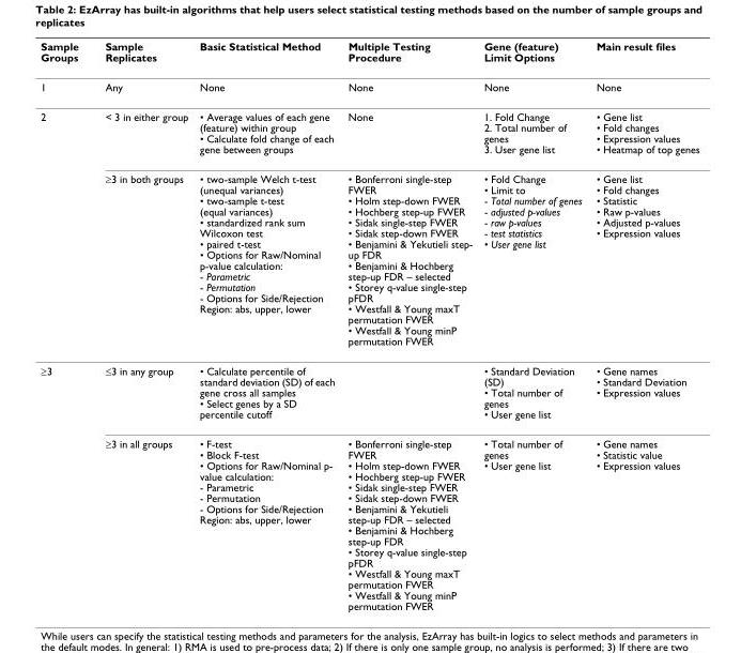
<table><thead><tr><td>Sample Groups</td><td>Sample Replicates</td><td>Basic Statistical Method</td><td>Multiple Testing Procedure</td><td>Gene (feature) Limit Options</td><td>Main result files</td></tr></thead><tbody><tr><td>1</td><td>Any</td><td>None</td><td>None</td><td>None</td><td>None</td></tr><tr><td rowspan="2">2</td><td>&lt; 3 in either group</td><td>• Average values of each gene (feature) within group • Calculate fold change of each gene between groups</td><td>None</td><td>1. Fold Change 2. Total number of genes 3. User gene list</td><td>• Gene list • Fold changes • Expression values • Heatmap of top genes</td></tr><tr><td>≥3 in both groups</td><td>• two-sample Welch t-test (unequal variances) • two-sample t-test (equal variances) • standardized rank sum Wilcoxon test • paired t-test • Options for Raw/Nominal p-value calculation: - Parametric - Permutation - Options for Side/Rejection Region: abs, upper, lower</td><td>• Bonferroni single-step FWER • Holm step-down FWER • Hochberg step-up FWER • Sidak single-step FWER • Sidak step-down FWER • Benjamini &amp; Yekutieli step- up FDR • Benjamini &amp; Hochberg step-up FDR – selected • Storey q-value single-step pFDR • Westfall &amp; Young maxT permutation FWER • Westfall &amp; Young minP permutation FWER</td><td>• Fold Change • Limit to - Total number of genes - adjusted p-values - raw p-values - test statistics • User gene list</td><td>• Gene list • Fold changes • Statistic • Raw p-values • Adjusted p-values • Expression values</td></tr><tr><td rowspan="2">≥3</td><td>≤3 in any group</td><td>• Calculate percentile of standard deviation (SD) of each gene cross all samples • Select genes by a SD percentile cutoff</td><td></td><td>• Standard Deviation (SD) • Total number of genes • User gene list</td><td>• Gene names • Standard Deviation • Expression values</td></tr><tr><td>≥3 in all groups</td><td>• F-test • Block F-test • Options for Raw/Nominal p- value calculation: - Parametric - Permutation - Options for Side/Rejection Region: abs, upper, lower</td><td>• Bonferroni single-step FWER • Holm step-down FWER • Hochberg step-up FWER • Sidak single-step FWER • Sidak step-down FWER • Benjamini &amp; Yekutieli step-up FDR – selected • Benjamini &amp; Hochberg step-up FDR • Storey q-value single-step pFDR • Westfall &amp; Young maxT permutation FWER • Westfall &amp; Young minP permutation FWER</td><td>• Total number of genes • User gene list</td><td>• Gene names • Statistic value • Expression values</td></tr></tbody></table>